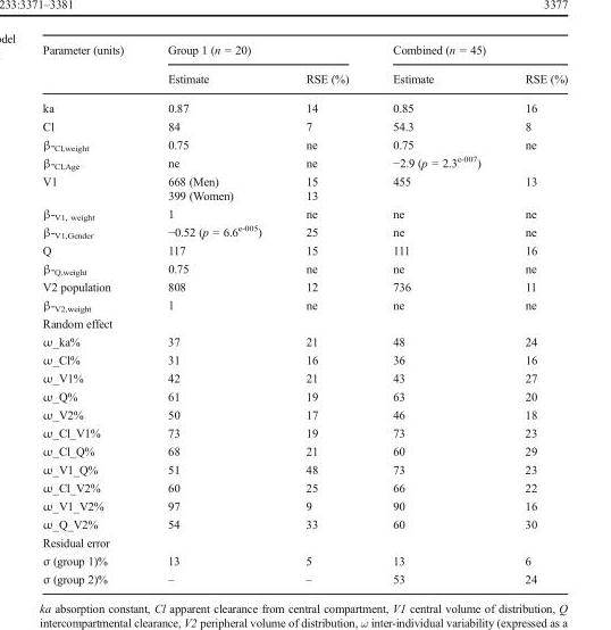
<table><thead><tr><td rowspan="2">Parameter (units)</td><td colspan="2">Group 1 (n = 20)</td><td colspan="2">Combined (n = 45)</td></tr><tr><td>Estimate</td><td>RSE (%)</td><td>Estimate</td><td>RSE (%)</td></tr></thead><tbody><tr><td>ka</td><td>0.87</td><td>14</td><td>0.85</td><td>16</td></tr><tr><td>Cl</td><td>84</td><td>7</td><td>54.3</td><td>8</td></tr><tr><td>β-<sub>Cl,weight</sub></td><td>0.75</td><td>ne</td><td>0.75</td><td>ne</td></tr><tr><td>β-<sub>Cl,Age</sub></td><td>ne</td><td>ne</td><td>−2.9 (p = 2.3<sup>e-007</sup>)</td><td></td></tr><tr><td rowspan="2">V1</td><td>668 (Men)</td><td>15</td><td rowspan="2">455</td><td rowspan="2">13</td></tr><tr><td>399 (Women)</td><td>13</td></tr><tr><td>β-<sub>V1, weight</sub></td><td>1</td><td>ne</td><td>ne</td><td>ne</td></tr><tr><td>β-<sub>V1,Gender</sub></td><td>−0.52 (p = 6.6<sup>e-005</sup>)</td><td>25</td><td>ne</td><td>ne</td></tr><tr><td>Q</td><td>117</td><td>15</td><td>111</td><td>16</td></tr><tr><td>β-<sub>Q,weight</sub></td><td>0.75</td><td>ne</td><td>ne</td><td>ne</td></tr><tr><td>V2 population</td><td>808</td><td>12</td><td>736</td><td>11</td></tr><tr><td>β-<sub>V2,weight</sub></td><td>1</td><td>ne</td><td>ne</td><td>ne</td></tr><tr><td colspan="5">Random effect</td></tr><tr><td>ω_ka%</td><td>37</td><td>21</td><td>48</td><td>24</td></tr><tr><td>ω_Cl%</td><td>31</td><td>16</td><td>36</td><td>16</td></tr><tr><td>ω_V1%</td><td>42</td><td>21</td><td>43</td><td>27</td></tr><tr><td>ω_Q%</td><td>61</td><td>19</td><td>63</td><td>20</td></tr><tr><td>ω_V2%</td><td>50</td><td>17</td><td>46</td><td>18</td></tr><tr><td>ω_Cl_V1%</td><td>73</td><td>19</td><td>73</td><td>23</td></tr><tr><td>ω_Cl_Q%</td><td>68</td><td>21</td><td>60</td><td>29</td></tr><tr><td>ω_V1_Q%</td><td>51</td><td>48</td><td>73</td><td>23</td></tr><tr><td>ω_Cl_V2%</td><td>60</td><td>25</td><td>66</td><td>22</td></tr><tr><td>ω_V1_V2%</td><td>97</td><td>9</td><td>90</td><td>16</td></tr><tr><td>ω_Q_V2%</td><td>54</td><td>33</td><td>60</td><td>30</td></tr><tr><td colspan="5">Residual error</td></tr><tr><td>σ (group 1)%</td><td>13</td><td>5</td><td>13</td><td>6</td></tr><tr><td>σ (group 2)%</td><td>–</td><td>–</td><td>53</td><td>24</td></tr></tbody></table>